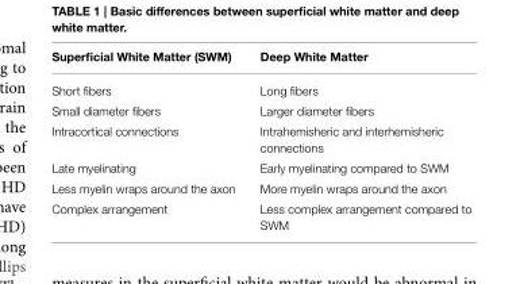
<table><thead><tr><td>Superficial White Matter (SWM)</td><td>Deep White Matter</td></tr></thead><tbody><tr><td>Short fibers</td><td>Long fibers</td></tr><tr><td>Small diameter fibers</td><td>Larger diameter fibers</td></tr><tr><td>Intracortical connections</td><td>Intrahemisheric and interhemisheric connections</td></tr><tr><td>Late myelinating</td><td>Early myelinating compared to SWM</td></tr><tr><td>Less myelin wraps around the axon</td><td>More myelin wraps around the axon</td></tr><tr><td>Complex arrangement</td><td>Less complex arrangement compared to SWM</td></tr></tbody></table>